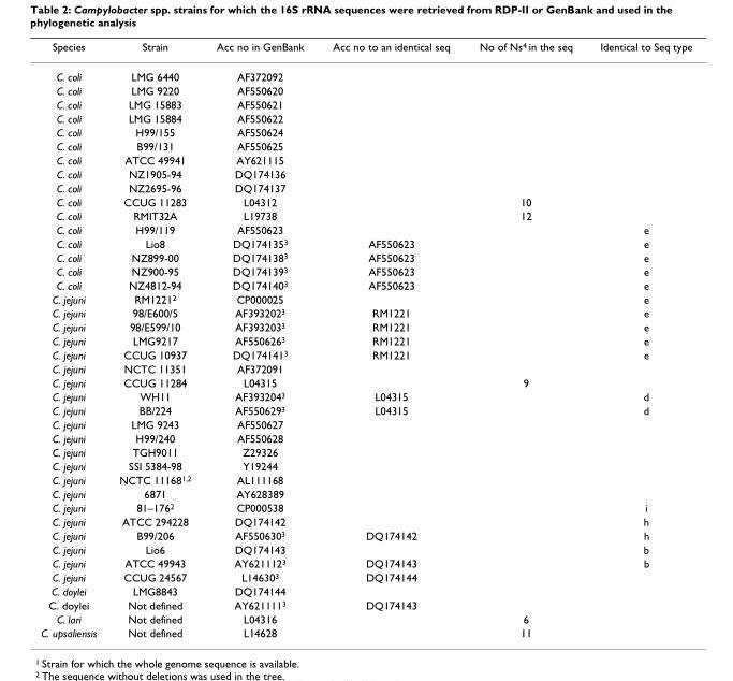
<table><thead><tr><td>Species</td><td>Strain</td><td>Acc no in GenBank</td><td>Acc no to an identical seq</td><td>No of Ns<sup>4</sup> in the seq</td><td>Identical to Seq type</td></tr></thead><tbody><tr><td>C. coli</td><td>LMG 6440</td><td>AF372092</td><td></td><td></td><td></td></tr><tr><td>C. coli</td><td>LMG 9220</td><td>AF550620</td><td></td><td></td><td></td></tr><tr><td>C. coli</td><td>LMG 15883</td><td>AF550621</td><td></td><td></td><td></td></tr><tr><td>C. coli</td><td>LMG 15884</td><td>AF550622</td><td></td><td></td><td></td></tr><tr><td>C. coli</td><td>H99/155</td><td>AF550624</td><td></td><td></td><td></td></tr><tr><td>C. coli</td><td>B99/131</td><td>AF550625</td><td></td><td></td><td></td></tr><tr><td>C. coli</td><td>ATCC 49941</td><td>AY621115</td><td></td><td></td><td></td></tr><tr><td>C. coli</td><td>NZ1905-94</td><td>DQ174136</td><td></td><td></td><td></td></tr><tr><td>C. coli</td><td>NZ2695-96</td><td>DQ174137</td><td></td><td></td><td></td></tr><tr><td>C. coli</td><td>CCUG 11283</td><td>L04312</td><td></td><td>10</td><td></td></tr><tr><td>C. coli</td><td>RMIT32A</td><td>L19738</td><td></td><td>12</td><td></td></tr><tr><td>C. coli</td><td>H99/119</td><td>AF550623</td><td></td><td></td><td>e</td></tr><tr><td>C. coli</td><td>Lio8</td><td>DQ174135<sup>3</sup></td><td>AF550623</td><td></td><td>e</td></tr><tr><td>C. coli</td><td>NZ899-00</td><td>DQ174138<sup>3</sup></td><td>AF550623</td><td></td><td>e</td></tr><tr><td>C. coli</td><td>NZ900-95</td><td>DQ174139<sup>3</sup></td><td>AF550623</td><td></td><td>e</td></tr><tr><td>C. coli</td><td>NZ4812-94</td><td>DQ174140<sup>3</sup></td><td>AF550623</td><td></td><td>e</td></tr><tr><td>C. jejuni</td><td>RM1221<sup>2</sup></td><td>CP000025</td><td></td><td></td><td>e</td></tr><tr><td>C. jejuni</td><td>98/E600/5</td><td>AF393202<sup>3</sup></td><td>RM1221</td><td></td><td>e</td></tr><tr><td>C. jejuni</td><td>98/E599/10</td><td>AF393203<sup>3</sup></td><td>RM1221</td><td></td><td>e</td></tr><tr><td>C. jejuni</td><td>LMG9217</td><td>AF550626<sup>3</sup></td><td>RM1221</td><td></td><td>e</td></tr><tr><td>C. jejuni</td><td>CCUG 10937</td><td>DQ174141<sup>3</sup></td><td>RM1221</td><td></td><td>e</td></tr><tr><td>C. jejuni</td><td>NCTC 11351</td><td>AF372091</td><td></td><td></td><td></td></tr><tr><td>C. jejuni</td><td>CCUG 11284</td><td>L04315</td><td></td><td>9</td><td></td></tr><tr><td>C. jejuni</td><td>WH11</td><td>AF393204<sup>3</sup></td><td>L04315</td><td></td><td>d</td></tr><tr><td>C. jejuni</td><td>BB/224</td><td>AF550629<sup>3</sup></td><td>L04315</td><td></td><td>d</td></tr><tr><td>C. jejuni</td><td>LMG 9243</td><td>AF550627</td><td></td><td></td><td></td></tr><tr><td>C. jejuni</td><td>H99/240</td><td>AF550628</td><td></td><td></td><td></td></tr><tr><td>C. jejuni</td><td>TGH9011</td><td>Z29326</td><td></td><td></td><td></td></tr><tr><td>C. jejuni</td><td>SSI 5384-98</td><td>Y19244</td><td></td><td></td><td></td></tr><tr><td>C. jejuni</td><td>NCTC 11168<sup>1,2</sup></td><td>AL111168</td><td></td><td></td><td></td></tr><tr><td>C. jejuni</td><td>6871</td><td>AY628389</td><td></td><td></td><td></td></tr><tr><td>C. jejuni</td><td>81–176<sup>2</sup></td><td>CP000538</td><td></td><td></td><td>i</td></tr><tr><td>C. jejuni</td><td>ATCC 294228</td><td>DQ174142</td><td></td><td></td><td>h</td></tr><tr><td>C. jejuni</td><td>B99/206</td><td>AF550630<sup>3</sup></td><td>DQ174142</td><td></td><td>h</td></tr><tr><td>C. jejuni</td><td>Lio6</td><td>DQ174143</td><td></td><td></td><td>b</td></tr><tr><td>C. jejuni</td><td>ATCC 49943</td><td>AY621112<sup>3</sup></td><td>DQ174143</td><td></td><td>b</td></tr><tr><td>C. jejuni</td><td>CCUG 24567</td><td>L14630<sup>3</sup></td><td>DQ174144</td><td></td><td></td></tr><tr><td>C. doylei</td><td>LMG8843</td><td>DQ174144</td><td></td><td></td><td></td></tr><tr><td>C. doylei</td><td>Not defined</td><td>AY621111<sup>3</sup></td><td>DQ174143</td><td></td><td></td></tr><tr><td>C. lari</td><td>Not defined</td><td>L04316</td><td></td><td>6</td><td></td></tr><tr><td>C. upsaliensis</td><td>Not defined</td><td>L14628</td><td></td><td>11</td><td></td></tr></tbody></table>